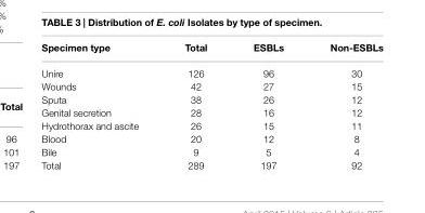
<table><thead><tr><td>Specimen type</td><td>Total</td><td>ESBLs</td><td>Non-ESBLs</td></tr></thead><tbody><tr><td>Unire</td><td>126</td><td>96</td><td>30</td></tr><tr><td>Wounds</td><td>42</td><td>27</td><td>15</td></tr><tr><td>Sputa</td><td>38</td><td>26</td><td>12</td></tr><tr><td>Genital secretion</td><td>28</td><td>16</td><td>12</td></tr><tr><td>Hydrothorax and ascite</td><td>26</td><td>15</td><td>11</td></tr><tr><td>Blood</td><td>20</td><td>12</td><td>8</td></tr><tr><td>Bile</td><td>9</td><td>5</td><td>4</td></tr><tr><td>Total</td><td>289</td><td>197</td><td>92</td></tr></tbody></table>